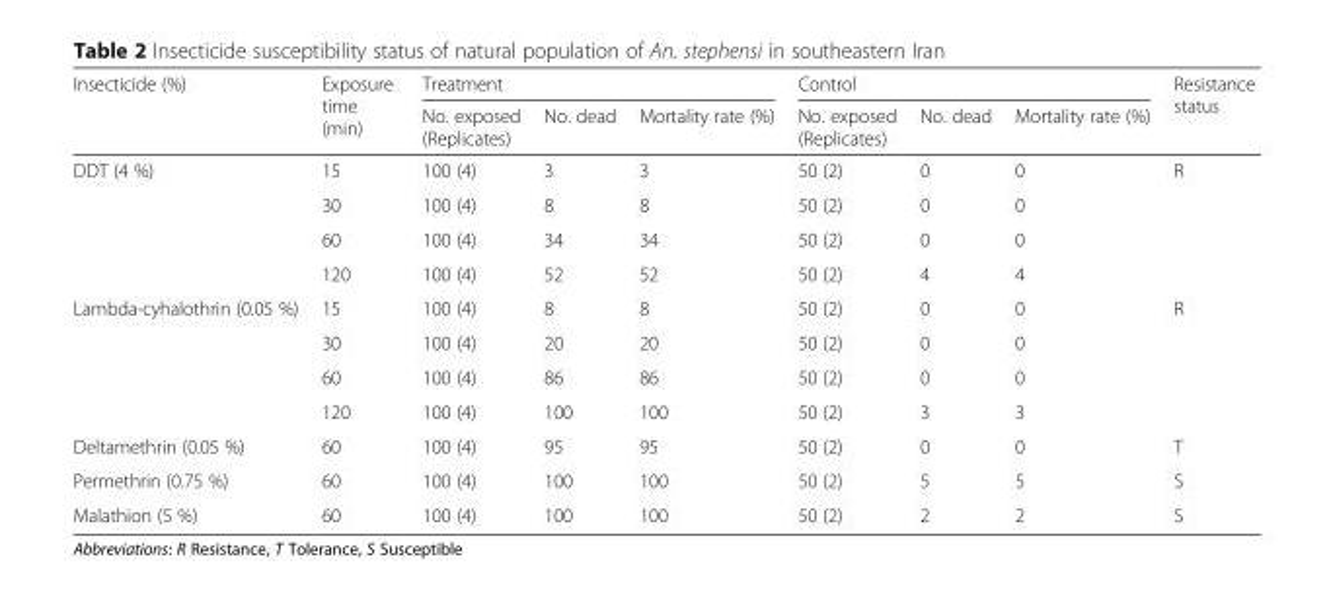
<table><thead><tr><td rowspan="2">Insecticide (%)</td><td rowspan="2">Exposure time (min)</td><td colspan="3">Treatment</td><td colspan="3">Control</td><td rowspan="2">Resistance status</td></tr><tr><td>No. exposed (Replicates)</td><td>No. dead</td><td>Mortality rate (%)</td><td>No. exposed (Replicates)</td><td>No. dead</td><td>Mortality rate (%)</td></tr></thead><tbody><tr><td rowspan="4">DDT (4 %)</td><td>15</td><td>100 (4)</td><td>3</td><td>3</td><td>50 (2)</td><td>0</td><td>0</td><td rowspan="4">R</td></tr><tr><td>30</td><td>100 (4)</td><td>8</td><td>8</td><td>50 (2)</td><td>0</td><td>0</td></tr><tr><td>60</td><td>100 (4)</td><td>34</td><td>34</td><td>50 (2)</td><td>0</td><td>0</td></tr><tr><td>120</td><td>100 (4)</td><td>52</td><td>52</td><td>50 (2)</td><td>4</td><td>4</td></tr><tr><td rowspan="4">Lambda-cyhalothrin (0.05 %)</td><td>15</td><td>100 (4)</td><td>8</td><td>8</td><td>50 (2)</td><td>0</td><td>0</td><td rowspan="4">R</td></tr><tr><td>30</td><td>100 (4)</td><td>20</td><td>20</td><td>50 (2)</td><td>0</td><td>0</td></tr><tr><td>60</td><td>100 (4)</td><td>86</td><td>86</td><td>50 (2)</td><td>0</td><td>0</td></tr><tr><td>120</td><td>100 (4)</td><td>100</td><td>100</td><td>50 (2)</td><td>3</td><td>3</td></tr><tr><td>Deltamethrin (0.05 %)</td><td>60</td><td>100 (4)</td><td>95</td><td>95</td><td>50 (2)</td><td>0</td><td>0</td><td>T</td></tr><tr><td>Permethrin (0.75 %)</td><td>60</td><td>100 (4)</td><td>100</td><td>100</td><td>50 (2)</td><td>5</td><td>5</td><td>S</td></tr><tr><td>Malathion (5 %)</td><td>60</td><td>100 (4)</td><td>100</td><td>100</td><td>50 (2)</td><td>2</td><td>2</td><td>S</td></tr></tbody></table>